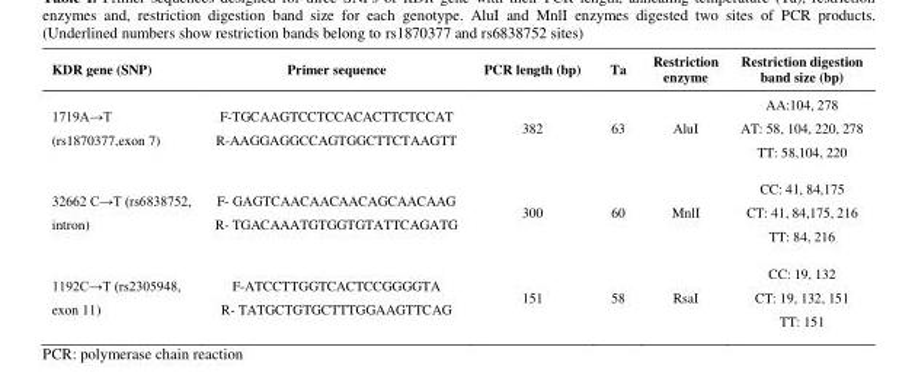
<table><thead><tr><td>KDR gene (SNP)</td><td>Primer sequence</td><td>PCR length (bp)</td><td>Ta</td><td>Restriction enzyme</td><td>Restriction digestion band size (bp)</td></tr></thead><tbody><tr><td>1719A→T (rs1870377,exon 7)</td><td>F-TGCAAGTCCTCCACACTTCTCCAT R-AAGGAGGCCAGTGGCTTCTAAGTT</td><td>382</td><td>63</td><td>AluI</td><td>AA:104, 278 AT: 58, 104, 220, 278 TT: 58,104, 220</td></tr><tr><td>32662 C→T (rs6838752, intron)</td><td>F- GAGTCAACAACAACAGCAACAAG R- TGACAAATGTGGTGTATTCAGATG</td><td>300</td><td>60</td><td>MnlI</td><td>CC: 41, 84,175 CT: 41, 84,175, 216 TT: 84, 216</td></tr><tr><td>1192C→T (rs2305948, exon 11)</td><td>F-ATCCTTGGTCACTCCGGGGTA R- TATGCTGTGCTTTGGAAGTTCAG</td><td>151</td><td>58</td><td>RsaI</td><td>CC: 19, 132 CT: 19, 132, 151 TT: 151</td></tr></tbody></table>